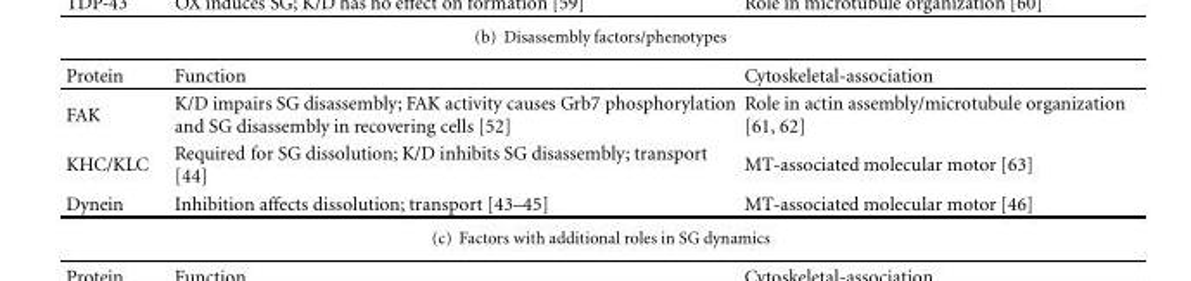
<table><thead><tr><td>Protein</td><td>Function</td><td>Cytoskeletal-association</td></tr></thead><tbody><tr><td>FAK</td><td>K/D impairs SG disassembly; FAK activity causes Grb7 phosphorylation and SG disassembly in recovering cells [52]</td><td>Role in actin assembly/microtubule organization [61, 62]</td></tr><tr><td>KHC/KLC</td><td>Required for SG dissolution; K/D inhibits SG disassembly; transport [44]</td><td>MT-associated molecular motor [63]</td></tr><tr><td>Dynein</td><td>Inhibition affects dissolution; transport [43–45]</td><td>MT-associated molecular motor [46]</td></tr></tbody></table>